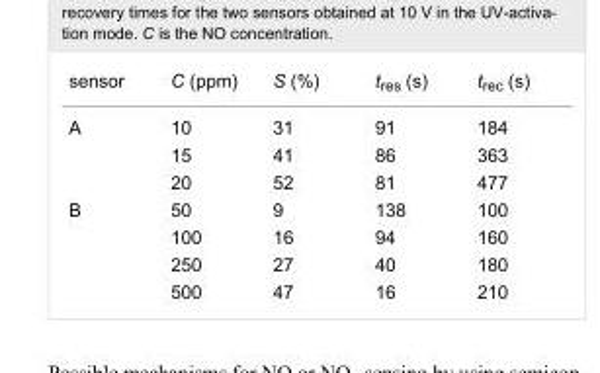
<table><tbody><tr><td>sensor</td><td>C (ppm)</td><td>S (%)</td><td>t<sub>res</sub> (s)</td><td>t<sub>rec</sub> (s)</td></tr><tr><td rowspan="3">A</td><td>10</td><td>31</td><td>91</td><td>184</td></tr><tr><td>15</td><td>41</td><td>86</td><td>363</td></tr><tr><td>20</td><td>52</td><td>81</td><td>477</td></tr><tr><td rowspan="4">B</td><td>50</td><td>9</td><td>138</td><td>100</td></tr><tr><td>100</td><td>16</td><td>94</td><td>160</td></tr><tr><td>250</td><td>27</td><td>40</td><td>180</td></tr><tr><td>500</td><td>47</td><td>16</td><td>210</td></tr></tbody></table>